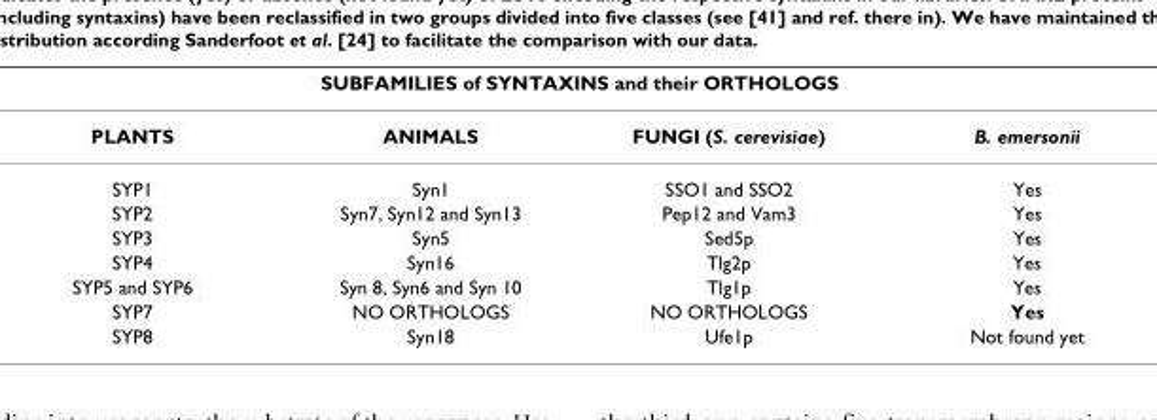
<table><thead><tr><td colspan="4">SUBFAMILIES of SYNTAXINS and their ORTHOLOGS</td></tr><tr><td>PLANTS</td><td>ANIMALS</td><td>FUNGI (S. cerevisiae)</td><td>B. emersonii</td></tr></thead><tbody><tr><td>SYP1</td><td>Syn1</td><td>SSO1 and SSO2</td><td>Yes</td></tr><tr><td>SYP2</td><td>Syn7, Syn12 and Syn13</td><td>Pep12 and Vam3</td><td>Yes</td></tr><tr><td>SYP3</td><td>Syn5</td><td>Sed5p</td><td>Yes</td></tr><tr><td>SYP4</td><td>Syn16</td><td>Tlg2p</td><td>Yes</td></tr><tr><td>SYP5 and SYP6</td><td>Syn 8, Syn6 and Syn 10</td><td>Tlg1p</td><td>Yes</td></tr><tr><td>SYP7</td><td>NO ORTHOLOGS</td><td>NO ORTHOLOGS</td><td>Yes</td></tr><tr><td>SYP8</td><td>Syn18</td><td>Ufe1p</td><td>Not found yet</td></tr></tbody></table>